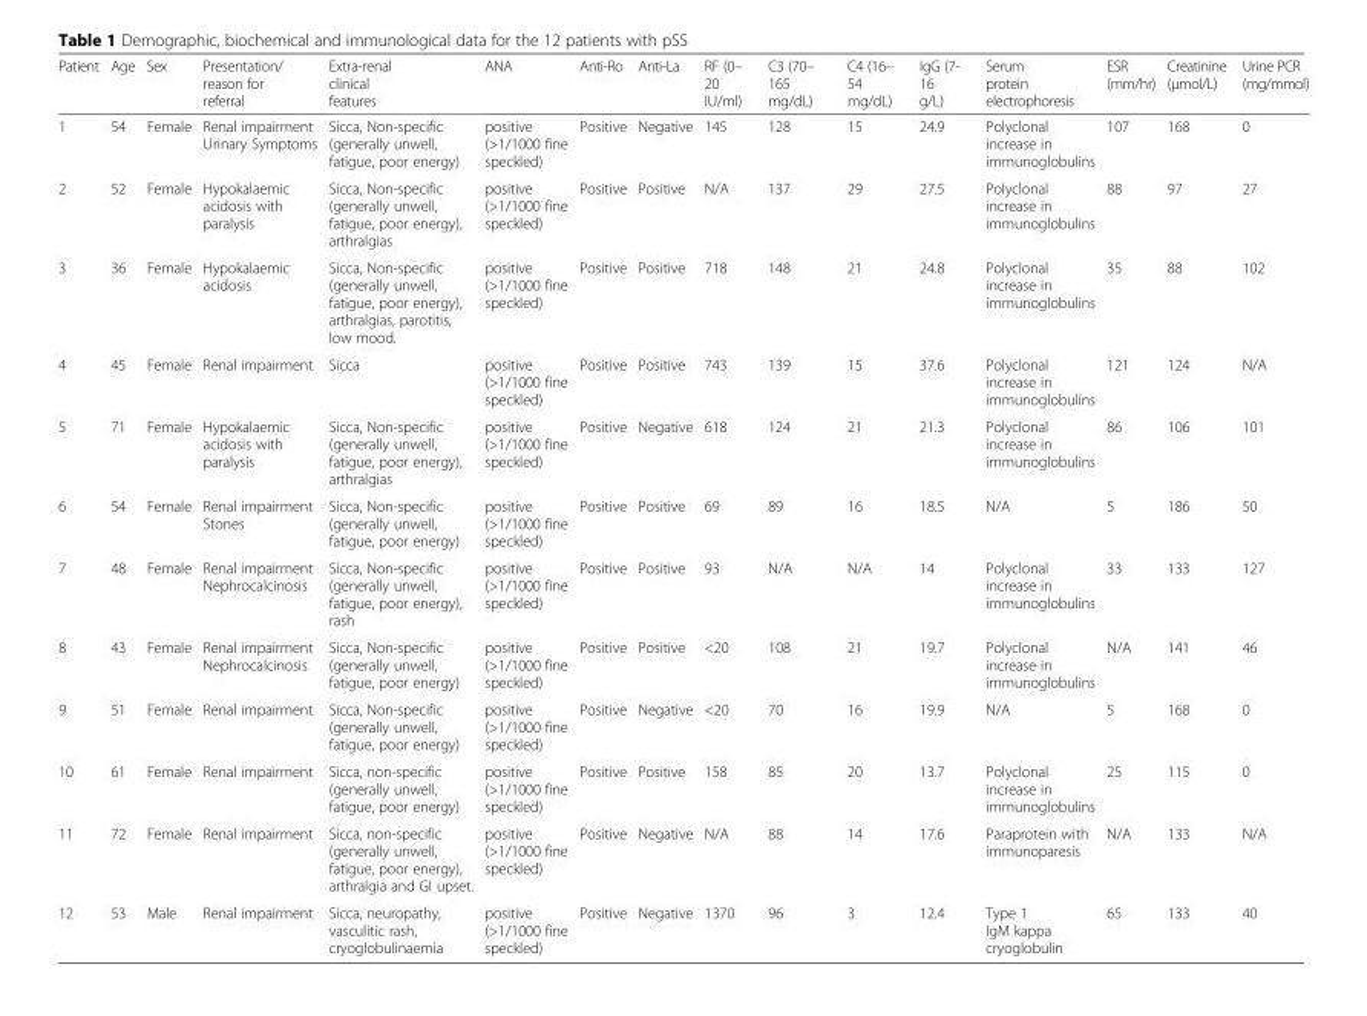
<table><thead><tr><td>Patient</td><td>Age</td><td>Sex</td><td>Presentation/ reason for referral</td><td>Extra-renal clinical features</td><td>ANA</td><td>Anti-Ro</td><td>Anti-La</td><td>RF (0– 20 IU/ml)</td><td>C3 (70– 165 mg/dL)</td><td>C4 (16– 54 mg/dL)</td><td>IgG (7- 16 g/L)</td><td>Serum protein electrophoresis</td><td>ESR (mm/hr)</td><td>Creatinine (μmol/L)</td><td>Urine PCR (mg/mmol)</td></tr></thead><tbody><tr><td>1</td><td>54</td><td>Female</td><td>Renal impairment Urinary Symptoms</td><td>Sicca, Non-specific (generally unwell, fatigue, poor energy)</td><td>positive (&gt;1/1000 fine speckled)</td><td>Positive</td><td>Negative</td><td>145</td><td>128</td><td>15</td><td>24.9</td><td>Polyclonal increase in immunoglobulins</td><td>107</td><td>168</td><td>0</td></tr><tr><td>2</td><td>52</td><td>Female</td><td>Hypokalaemic acidosis with paralysis</td><td>Sicca, Non-specific (generally unwell, fatigue, poor energy), arthralgias</td><td>positive (&gt;1/1000 fine speckled)</td><td>Positive</td><td>Positive</td><td>N/A</td><td>137</td><td>29</td><td>27.5</td><td>Polyclonal increase in immunoglobulins</td><td>88</td><td>97</td><td>27</td></tr><tr><td>3</td><td>36</td><td>Female</td><td>Hypokalaemic acidosis</td><td>Sicca, Non-specific (generally unwell, fatigue, poor energy), arthralgias, parotitis, low mood.</td><td>positive (&gt;1/1000 fine speckled)</td><td>Positive</td><td>Positive</td><td>718</td><td>148</td><td>21</td><td>24.8</td><td>Polyclonal increase in immunoglobulins</td><td>35</td><td>88</td><td>102</td></tr><tr><td>4</td><td>45</td><td>Female</td><td>Renal impairment</td><td>Sicca</td><td>positive (&gt;1/1000 fine speckled)</td><td>Positive</td><td>Positive</td><td>743</td><td>139</td><td>15</td><td>37.6</td><td>Polyclonal increase in immunoglobulins</td><td>121</td><td>124</td><td>N/A</td></tr><tr><td>5</td><td>71</td><td>Female</td><td>Hypokalaemic acidosis with paralysis</td><td>Sicca, Non-specific (generally unwell, fatigue, poor energy), arthralgias</td><td>positive (&gt;1/1000 fine speckled)</td><td>Positive</td><td>Negative</td><td>618</td><td>124</td><td>21</td><td>21.3</td><td>Polyclonal increase in immunoglobulins</td><td>86</td><td>106</td><td>101</td></tr><tr><td>6</td><td>54</td><td>Female</td><td>Renal impairment Stones</td><td>Sicca, Non-specific (generally unwell, fatigue, poor energy)</td><td>positive (&gt;1/1000 fine speckled)</td><td>Positive</td><td>Positive</td><td>69</td><td>89</td><td>16</td><td>18.5</td><td>N/A</td><td>5</td><td>186</td><td>50</td></tr><tr><td>7</td><td>48</td><td>Female</td><td>Renal impairment Nephrocalcinosis</td><td>Sicca, Non-specific (generally unwell, fatigue, poor energy), rash</td><td>positive (&gt;1/1000 fine speckled)</td><td>Positive</td><td>Positive</td><td>93</td><td>N/A</td><td>N/A</td><td>14</td><td>Polyclonal increase in immunoglobulins</td><td>33</td><td>133</td><td>127</td></tr><tr><td>8</td><td>43</td><td>Female</td><td>Renal impairment Nephrocalcinosis</td><td>Sicca, Non-specific (generally unwell, fatigue, poor energy)</td><td>positive (&gt;1/1000 fine speckled)</td><td>Positive</td><td>Positive</td><td>&lt;20</td><td>108</td><td>21</td><td>19.7</td><td>Polyclonal increase in immunoglobulins</td><td>N/A</td><td>141</td><td>46</td></tr><tr><td>9</td><td>51</td><td>Female</td><td>Renal impairment</td><td>Sicca, Non-specific (generally unwell, fatigue, poor energy)</td><td>positive (&gt;1/1000 fine speckled)</td><td>Positive</td><td>Negative</td><td>&lt;20</td><td>70</td><td>16</td><td>19.9</td><td>N/A</td><td>5</td><td>168</td><td>0</td></tr><tr><td>10</td><td>61</td><td>Female</td><td>Renal impairment</td><td>Sicca, non-specific (generally unwell, fatigue, poor energy)</td><td>positive (&gt;1/1000 fine speckled)</td><td>Positive</td><td>Positive</td><td>158</td><td>85</td><td>20</td><td>13.7</td><td>Polyclonal increase in immunoglobulins</td><td>25</td><td>115</td><td>0</td></tr><tr><td>11</td><td>72</td><td>Female</td><td>Renal impairment</td><td>Sicca, non-specific (generally unwell, fatigue, poor energy), arthralgia and GI upset.</td><td>positive (&gt;1/1000 fine speckled)</td><td>Positive</td><td>Negative</td><td>N/A</td><td>88</td><td>14</td><td>17.6</td><td>Paraprotein with immunoparesis</td><td>N/A</td><td>133</td><td>N/A</td></tr><tr><td>12</td><td>53</td><td>Male</td><td>Renal impairment</td><td>Sicca, neuropathy, vasculitic rash, cryoglobulinaemia</td><td>positive (&gt;1/1000 fine speckled)</td><td>Positive</td><td>Negative</td><td>1370</td><td>96</td><td>3</td><td>12.4</td><td>Type 1 IgM kappa cryoglobulin</td><td>65</td><td>133</td><td>40</td></tr></tbody></table>